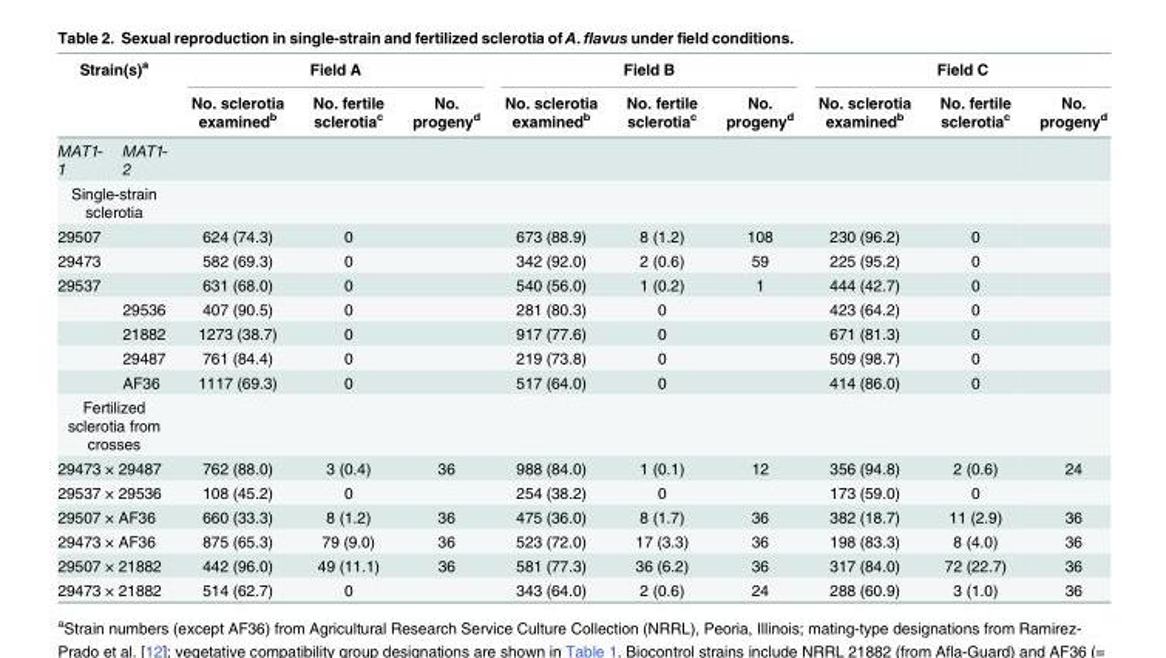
<table><thead><tr><td colspan="2">Strain(s)<sup>a</sup></td><td colspan="3">Field A</td><td colspan="3">Field B</td><td colspan="3">Field C</td></tr><tr><td></td><td></td><td>No. sclerotia examined<sup>b</sup></td><td>No. fertile sclerotia<sup>c</sup></td><td>No. progeny<sup>d</sup></td><td>No. sclerotia examined<sup>b</sup></td><td>No. fertile sclerotia<sup>c</sup></td><td>No. progeny<sup>d</sup></td><td>No. sclerotia examined<sup>b</sup></td><td>No. fertile sclerotia<sup>c</sup></td><td>No. progeny<sup>d</sup></td></tr></thead><tbody><tr><td>MAT1- 1</td><td>MAT1- 2</td><td></td><td></td><td></td><td></td><td></td><td></td><td></td><td></td><td></td></tr><tr><td colspan="11">Single-strain sclerotia</td></tr><tr><td>29507</td><td></td><td>624 (74.3)</td><td>0</td><td></td><td>673 (88.9)</td><td>8 (1.2)</td><td>108</td><td>230 (96.2)</td><td>0</td><td></td></tr><tr><td>29473</td><td></td><td>582 (69.3)</td><td>0</td><td></td><td>342 (92.0)</td><td>2 (0.6)</td><td>59</td><td>225 (95.2)</td><td>0</td><td></td></tr><tr><td rowspan="5">29537</td><td></td><td>631 (68.0)</td><td>0</td><td></td><td>540 (56.0)</td><td>1 (0.2)</td><td>1</td><td>444 (42.7)</td><td>0</td><td></td></tr><tr><td>29536</td><td>407 (90.5)</td><td>0</td><td></td><td>281 (80.3)</td><td>0</td><td></td><td>423 (64.2)</td><td>0</td><td></td></tr><tr><td>21882</td><td>1273 (38.7)</td><td>0</td><td></td><td>917 (77.6)</td><td>0</td><td></td><td>671 (81.3)</td><td>0</td><td></td></tr><tr><td>29487</td><td>761 (84.4)</td><td>0</td><td></td><td>219 (73.8)</td><td>0</td><td></td><td>509 (98.7)</td><td>0</td><td></td></tr><tr><td>AF36</td><td>1117 (69.3)</td><td>0</td><td></td><td>517 (64.0)</td><td>0</td><td></td><td>414 (86.0)</td><td>0</td><td></td></tr><tr><td colspan="11">Fertilized sclerotia from crosses</td></tr><tr><td colspan="2">29473 × 29487</td><td>762 (88.0)</td><td>3 (0.4)</td><td>36</td><td>988 (84.0)</td><td>1 (0.1)</td><td>12</td><td>356 (94.8)</td><td>2 (0.6)</td><td>24</td></tr><tr><td colspan="2">29537 × 29536</td><td>108 (45.2)</td><td>0</td><td></td><td>254 (38.2)</td><td>0</td><td></td><td>173 (59.0)</td><td>0</td><td></td></tr><tr><td colspan="2">29507 × AF36</td><td>660 (33.3)</td><td>8 (1.2)</td><td>36</td><td>475 (36.0)</td><td>8 (1.7)</td><td>36</td><td>382 (18.7)</td><td>11 (2.9)</td><td>36</td></tr><tr><td colspan="2">29473 × AF36</td><td>875 (65.3)</td><td>79 (9.0)</td><td>36</td><td>523 (72.0)</td><td>17 (3.3)</td><td>36</td><td>198 (83.3)</td><td>8 (4.0)</td><td>36</td></tr><tr><td colspan="2">29507 × 21882</td><td>442 (96.0)</td><td>49 (11.1)</td><td>36</td><td>581 (77.3)</td><td>36 (6.2)</td><td>36</td><td>317 (84.0)</td><td>72 (22.7)</td><td>36</td></tr><tr><td colspan="2">29473 × 21882</td><td>514 (62.7)</td><td>0</td><td></td><td>343 (64.0)</td><td>2 (0.6)</td><td>24</td><td>288 (60.9)</td><td>3 (1.0)</td><td>36</td></tr></tbody></table>